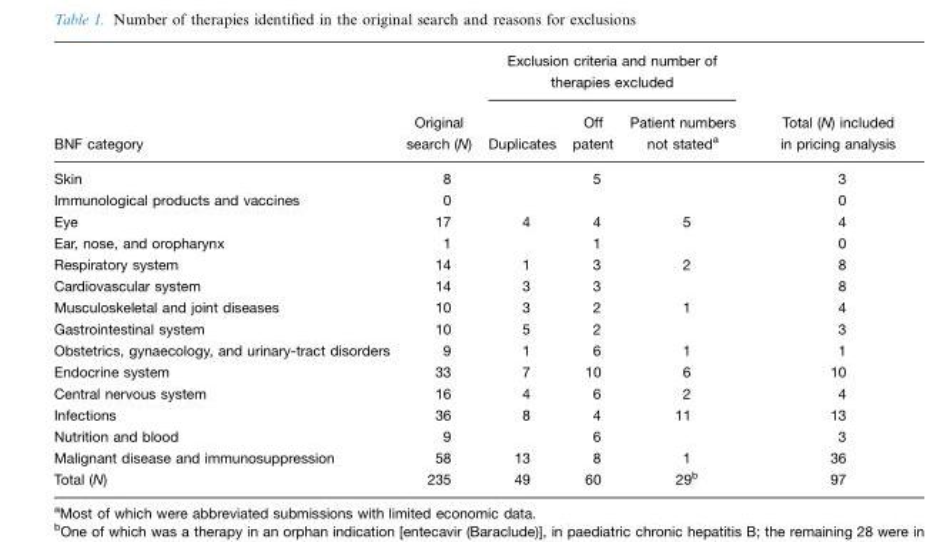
<table><thead><tr><td rowspan="2">BNF category</td><td rowspan="2">Original search (N)</td><td colspan="3">Exclusion criteria and number of therapies excluded</td><td rowspan="2">Total (N) included in pricing analysis</td></tr><tr><td>Duplicates</td><td>Off patent</td><td>Patient numbers not stated<sup>a</sup></td></tr></thead><tbody><tr><td>Skin</td><td>8</td><td></td><td>5</td><td></td><td>3</td></tr><tr><td>Immunological products and vaccines</td><td>0</td><td></td><td></td><td></td><td>0</td></tr><tr><td>Eye</td><td>17</td><td>4</td><td>4</td><td>5</td><td>4</td></tr><tr><td>Ear, nose, and oropharynx</td><td>1</td><td></td><td>1</td><td></td><td>0</td></tr><tr><td>Respiratory system</td><td>14</td><td>1</td><td>3</td><td>2</td><td>8</td></tr><tr><td>Cardiovascular system</td><td>14</td><td>3</td><td>3</td><td></td><td>8</td></tr><tr><td>Musculoskeletal and joint diseases</td><td>10</td><td>3</td><td>2</td><td>1</td><td>4</td></tr><tr><td>Gastrointestinal system</td><td>10</td><td>5</td><td>2</td><td></td><td>3</td></tr><tr><td>Obstetrics, gynaecology, and urinary-tract disorders</td><td>9</td><td>1</td><td>6</td><td>1</td><td>1</td></tr><tr><td>Endocrine system</td><td>33</td><td>7</td><td>10</td><td>6</td><td>10</td></tr><tr><td>Central nervous system</td><td>16</td><td>4</td><td>6</td><td>2</td><td>4</td></tr><tr><td>Infections</td><td>36</td><td>8</td><td>4</td><td>11</td><td>13</td></tr><tr><td>Nutrition and blood</td><td>9</td><td></td><td>6</td><td></td><td>3</td></tr><tr><td>Malignant disease and immunosuppression</td><td>58</td><td>13</td><td>8</td><td>1</td><td>36</td></tr><tr><td>Total (N)</td><td>235</td><td>49</td><td>60</td><td>29<sup>b</sup></td><td>97</td></tr></tbody></table>